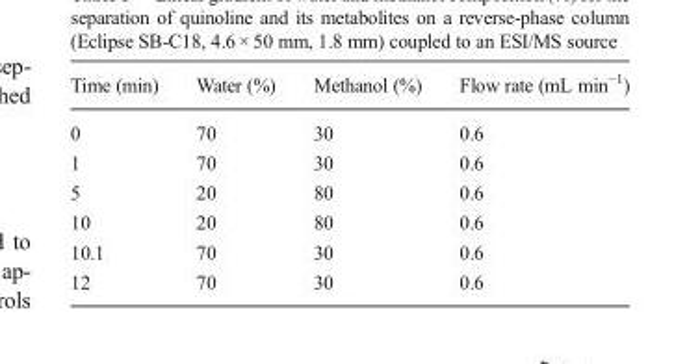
<table><thead><tr><td>Time (min)</td><td>Water (%)</td><td>Methanol (%)</td><td>Flow rate (mL min<sup>−1</sup>)</td></tr></thead><tbody><tr><td>0</td><td>70</td><td>30</td><td>0.6</td></tr><tr><td>1</td><td>70</td><td>30</td><td>0.6</td></tr><tr><td>5</td><td>20</td><td>80</td><td>0.6</td></tr><tr><td>10</td><td>20</td><td>80</td><td>0.6</td></tr><tr><td>10.1</td><td>70</td><td>30</td><td>0.6</td></tr><tr><td>12</td><td>70</td><td>30</td><td>0.6</td></tr></tbody></table>